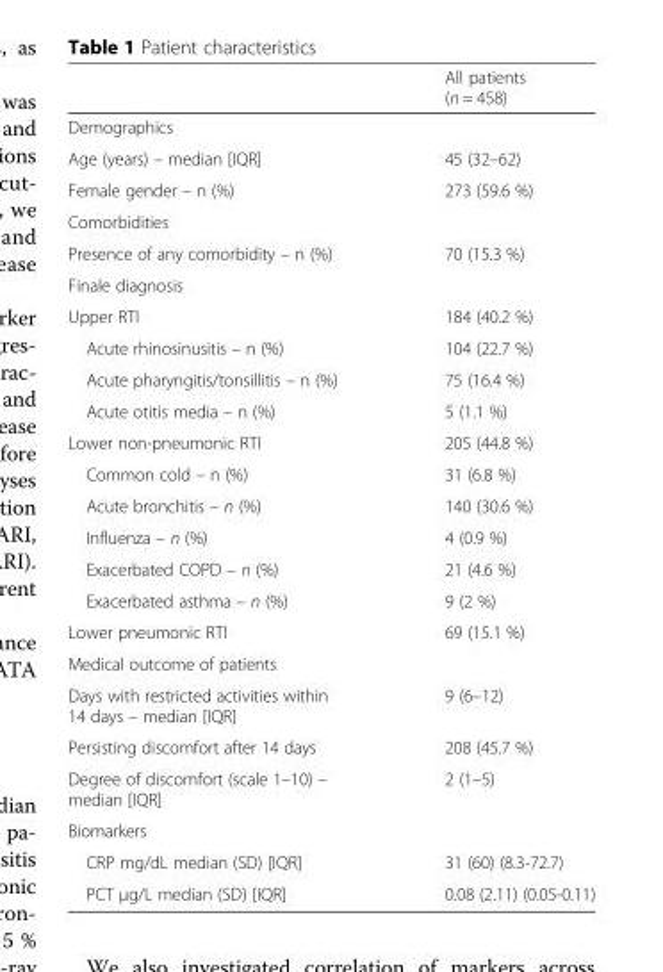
<table><thead><tr><td></td><td>All patients (n = 458)</td></tr></thead><tbody><tr><td colspan="2">Demographics</td></tr><tr><td>Age (years) – median [IQR]</td><td>45 (32–62)</td></tr><tr><td>Female gender – n (%)</td><td>273 (59.6 %)</td></tr><tr><td colspan="2">Comorbidities</td></tr><tr><td>Presence of any comorbidity – n (%)</td><td>70 (15.3 %)</td></tr><tr><td colspan="2">Finale diagnosis</td></tr><tr><td>Upper RTI</td><td>184 (40.2 %)</td></tr><tr><td>Acute rhinosinusitis – n (%)</td><td>104 (22.7 %)</td></tr><tr><td>Acute pharyngitis/tonsillitis – n (%)</td><td>75 (16.4 %)</td></tr><tr><td>Acute otitis media – n (%)</td><td>5 (1.1 %)</td></tr><tr><td>Lower non-pneumonic RTI</td><td>205 (44.8 %)</td></tr><tr><td>Common cold – n (%)</td><td>31 (6.8 %)</td></tr><tr><td>Acute bronchitis – n (%)</td><td>140 (30.6 %)</td></tr><tr><td>Influenza – n (%)</td><td>4 (0.9 %)</td></tr><tr><td>Exacerbated COPD – n (%)</td><td>21 (4.6 %)</td></tr><tr><td>Exacerbated asthma – n (%)</td><td>9 (2 %)</td></tr><tr><td>Lower pneumonic RTI</td><td>69 (15.1 %)</td></tr><tr><td colspan="2">Medical outcome of patients</td></tr><tr><td>Days with restricted activities within 14 days – median [IQR]</td><td>9 (6–12)</td></tr><tr><td>Persisting discomfort after 14 days</td><td>208 (45.7 %)</td></tr><tr><td>Degree of discomfort (scale 1–10) – median [IQR]</td><td>2 (1–5)</td></tr><tr><td colspan="2">Biomarkers</td></tr><tr><td>CRP mg/dL median (SD) [IQR]</td><td>31 (60) (8.3-72.7)</td></tr><tr><td>PCT μg/L median (SD) [IQR]</td><td>0.08 (2.11) (0.05-0.11)</td></tr></tbody></table>